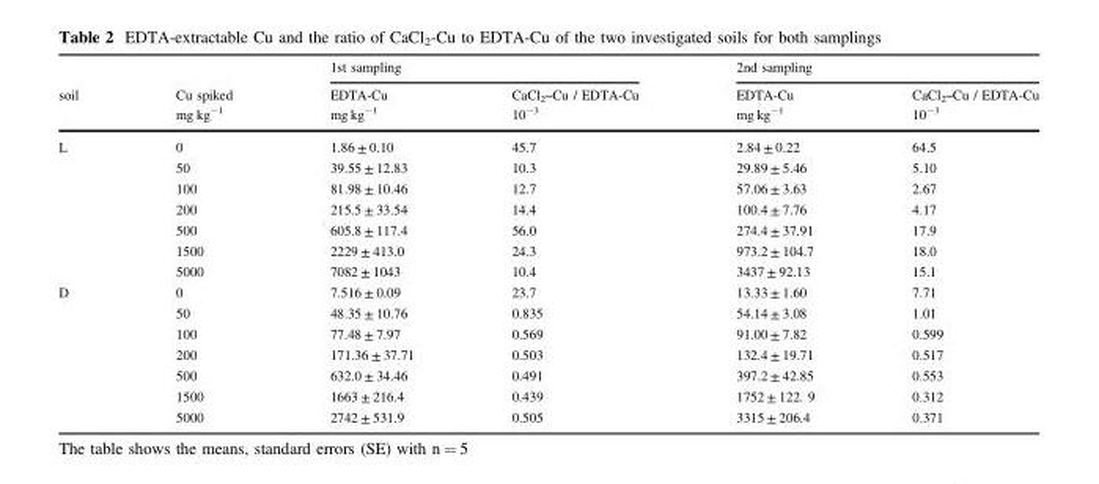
<table><thead><tr><td rowspan="3">soil</td><td rowspan="3">Cu spiked mg kg<sup>−1</sup></td><td colspan="2">1st sampling</td><td colspan="2">2nd sampling</td></tr><tr><td rowspan="2">EDTA-Cu mg kg<sup>−1</sup></td><td rowspan="2">CaCl<sub>2</sub>–Cu / EDTA-Cu 10<sup>−3</sup></td><td rowspan="2">EDTA-Cu mg kg<sup>−1</sup></td><td rowspan="2">CaCl<sub>2</sub>–Cu / EDTA-Cu 10<sup>−3</sup></td></tr><tr></tr></thead><tbody><tr><td rowspan="7">L</td><td>0</td><td>1.86 ± 0.10</td><td>45.7</td><td>2.84 ± 0.22</td><td>64.5</td></tr><tr><td>50</td><td>39.55 ± 12.83</td><td>10.3</td><td>29.89 ± 5.46</td><td>5.10</td></tr><tr><td>100</td><td>81.98 ± 10.46</td><td>12.7</td><td>57.06 ± 3.63</td><td>2.67</td></tr><tr><td>200</td><td>215.5 ± 33.54</td><td>14.4</td><td>100.4 ± 7.76</td><td>4.17</td></tr><tr><td>500</td><td>605.8 ± 117.4</td><td>56.0</td><td>274.4 ± 37.91</td><td>17.9</td></tr><tr><td>1500</td><td>2229 ± 413.0</td><td>24.3</td><td>973.2 ± 104.7</td><td>18.0</td></tr><tr><td>5000</td><td>7082 ± 1043</td><td>10.4</td><td>3437 ± 92.13</td><td>15.1</td></tr><tr><td rowspan="7">D</td><td>0</td><td>7.516 ± 0.09</td><td>23.7</td><td>13.33 ± 1.60</td><td>7.71</td></tr><tr><td>50</td><td>48.35 ± 10.76</td><td>0.835</td><td>54.14 ± 3.08</td><td>1.01</td></tr><tr><td>100</td><td>77.48 ± 7.97</td><td>0.569</td><td>91.00 ± 7.82</td><td>0.599</td></tr><tr><td>200</td><td>171.36 ± 37.71</td><td>0.503</td><td>132.4 ± 19.71</td><td>0.517</td></tr><tr><td>500</td><td>632.0 ± 34.46</td><td>0.491</td><td>397.2 ± 42.85</td><td>0.553</td></tr><tr><td>1500</td><td>1663 ± 216.4</td><td>0.439</td><td>1752 ± 122. 9</td><td>0.312</td></tr><tr><td>5000</td><td>2742 ± 531.9</td><td>0.505</td><td>3315 ± 206.4</td><td>0.371</td></tr></tbody></table>